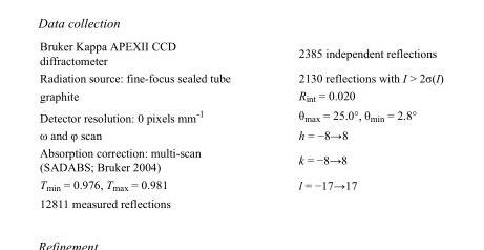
<table><tbody><tr><td>Bruker Kappa APEXII CCD diffractometer</td><td>2385 independent reflections</td></tr><tr><td>Radiation source: fine-focus sealed tube</td><td>2130 reflections with I &gt; 2σ(I)</td></tr><tr><td>graphite</td><td>R<sub>int</sub> = 0.020</td></tr><tr><td>Detector resolution: 0 pixels mm<sup>-1</sup></td><td>θ<sub>max</sub> = 25.0°, θ<sub>min</sub> = 2.8°</td></tr><tr><td>ω and φ scan</td><td>h = −8→8</td></tr><tr><td>Absorption correction: multi-scan (SADABS; Bruker 2004)</td><td>k = −8→8</td></tr><tr><td>T<sub>min</sub> = 0.976, T<sub>max</sub> = 0.981</td><td>l = −17→17</td></tr><tr><td>12811 measured reflections</td><td></td></tr></tbody></table>